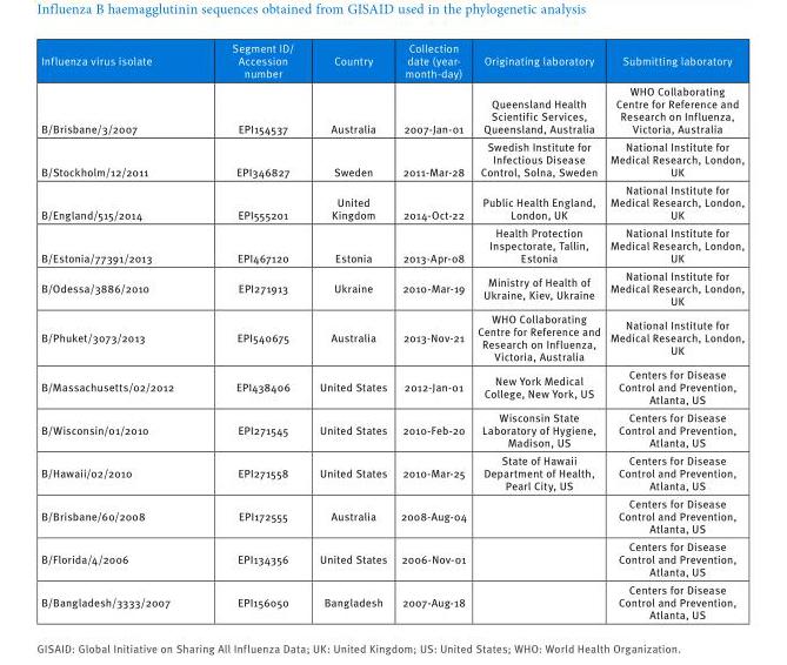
<table><thead><tr><td>Influenza virus isolate</td><td>Segment ID/ Accession number</td><td>Country</td><td>Collection date (year- month-day)</td><td>Originating laboratory</td><td>Submitting laboratory</td></tr></thead><tbody><tr><td>B/Brisbane/3/2007</td><td>EPI154537</td><td>Australia</td><td>2007-Jan-01</td><td>Queensland Health Scientific Services, Queensland, Australia</td><td>WHO Collaborating Centre for Reference and Research on Influenza, Victoria, Australia</td></tr><tr><td>B/Stockholm/12/2011</td><td>EPI346827</td><td>Sweden</td><td>2011-Mar-28</td><td>Swedish Institute for Infectious Disease Control, Solna, Sweden</td><td>National Institute for Medical Research, London, UK</td></tr><tr><td>B/England/515/2014</td><td>EPI555201</td><td>United Kingdom</td><td>2014-Oct-22</td><td>Public Health England, London, UK</td><td>National Institute for Medical Research, London, UK</td></tr><tr><td>B/Estonia/77391/2013</td><td>EPI467120</td><td>Estonia</td><td>2013-Apr-08</td><td>Health Protection Inspectorate, Tallin, Estonia</td><td>National Institute for Medical Research, London, UK</td></tr><tr><td>B/Odessa/3886/2010</td><td>EPI271913</td><td>Ukraine</td><td>2010-Mar-19</td><td>Ministry of Health of Ukraine, Kiev, Ukraine</td><td>National Institute for Medical Research, London, UK</td></tr><tr><td>B/Phuket/3073/2013</td><td>EPI540675</td><td>Australia</td><td>2013-Nov-21</td><td>WHO Collaborating Centre for Reference and Research on Influenza, Victoria, Australia</td><td>National Institute for Medical Research, London, UK</td></tr><tr><td>B/Massachusetts/02/2012</td><td>EPI438406</td><td>United States</td><td>2012-Jan-01</td><td>New York Medical College, New York, US</td><td>Centers for Disease Control and Prevention, Atlanta, US</td></tr><tr><td>B/Wisconsin/01/2010</td><td>EPI271545</td><td>United States</td><td>2010-Feb-20</td><td>Wisconsin State Laboratory of Hygiene, Madison, US</td><td>Centers for Disease Control and Prevention, Atlanta, US</td></tr><tr><td>B/Hawaii/02/2010</td><td>EPI271558</td><td>United States</td><td>2010-Mar-25</td><td>State of Hawaii Department of Health, Pearl City, US</td><td>Centers for Disease Control and Prevention, Atlanta, US</td></tr><tr><td>B/Brisbane/60/2008</td><td>EPI172555</td><td>Australia</td><td>2008-Aug-04</td><td></td><td>Centers for Disease Control and Prevention, Atlanta, US</td></tr><tr><td>B/Florida/4/2006</td><td>EPI134356</td><td>United States</td><td>2006-Nov-01</td><td></td><td>Centers for Disease Control and Prevention, Atlanta, US</td></tr><tr><td>B/Bangladesh/3333/2007</td><td>EPI156050</td><td>Bangladesh</td><td>2007-Aug-18</td><td></td><td>Centers for Disease Control and Prevention, Atlanta, US</td></tr></tbody></table>